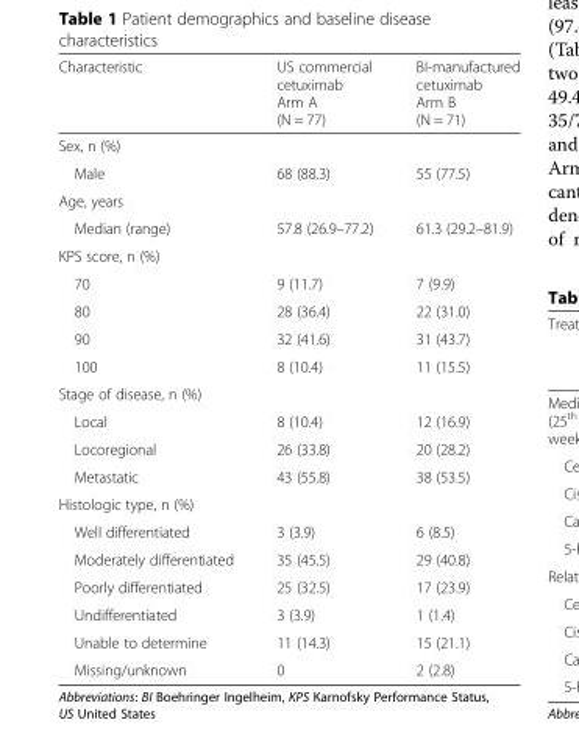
<table><thead><tr><td>Characteristic</td><td>US commercial cetuximab Arm A (N = 77)</td><td>BI-manufactured cetuximab Arm B (N = 71)</td></tr></thead><tbody><tr><td colspan="3">Sex, n (%)</td></tr><tr><td>Male</td><td>68 (88.3)</td><td>55 (77.5)</td></tr><tr><td colspan="3">Age, years</td></tr><tr><td>Median (range)</td><td>57.8 (26.9–77.2)</td><td>61.3 (29.2–81.9)</td></tr><tr><td colspan="3">KPS score, n (%)</td></tr><tr><td>70</td><td>9 (11.7)</td><td>7 (9.9)</td></tr><tr><td>80</td><td>28 (36.4)</td><td>22 (31.0)</td></tr><tr><td>90</td><td>32 (41.6)</td><td>31 (43.7)</td></tr><tr><td>100</td><td>8 (10.4)</td><td>11 (15.5)</td></tr><tr><td colspan="3">Stage of disease, n (%)</td></tr><tr><td>Local</td><td>8 (10.4)</td><td>12 (16.9)</td></tr><tr><td>Locoregional</td><td>26 (33.8)</td><td>20 (28.2)</td></tr><tr><td>Metastatic</td><td>43 (55.8)</td><td>38 (53.5)</td></tr><tr><td colspan="3">Histologic type, n (%)</td></tr><tr><td>Well differentiated</td><td>3 (3.9)</td><td>6 (8.5)</td></tr><tr><td>Moderately differentiated</td><td>35 (45.5)</td><td>29 (40.8)</td></tr><tr><td>Poorly differentiated</td><td>25 (32.5)</td><td>17 (23.9)</td></tr><tr><td>Undifferentiated</td><td>3 (3.9)</td><td>1 (1.4)</td></tr><tr><td>Unable to determine</td><td>11 (14.3)</td><td>15 (21.1)</td></tr><tr><td>Missing/unknown</td><td>0</td><td>2 (2.8)</td></tr></tbody></table>